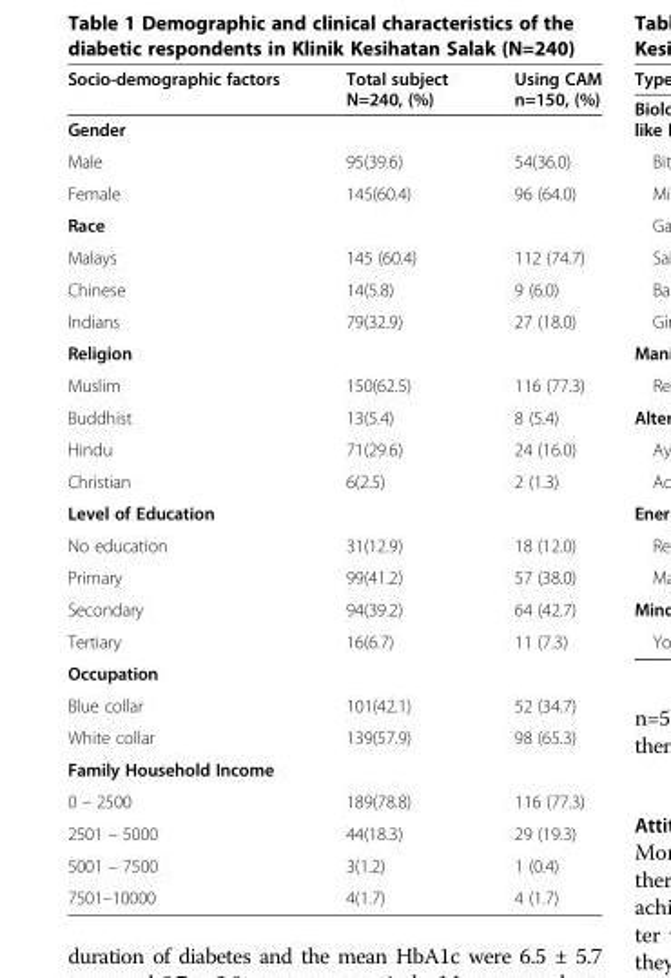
<table><thead><tr><td>Socio-demographic factors</td><td>Total subject N=240, (%)</td><td>Using CAM n=150, (%)</td></tr></thead><tbody><tr><td colspan="3">Gender</td></tr><tr><td>Male</td><td>95(39.6)</td><td>54(36.0)</td></tr><tr><td>Female</td><td>145(60.4)</td><td>96 (64.0)</td></tr><tr><td colspan="3">Race</td></tr><tr><td>Malays</td><td>145 (60.4)</td><td>112 (74.7)</td></tr><tr><td>Chinese</td><td>14(5.8)</td><td>9 (6.0)</td></tr><tr><td>Indians</td><td>79(32.9)</td><td>27 (18.0)</td></tr><tr><td colspan="3">Religion</td></tr><tr><td>Muslim</td><td>150(62.5)</td><td>116 (77.3)</td></tr><tr><td>Buddhist</td><td>13(5.4)</td><td>8 (5.4)</td></tr><tr><td>Hindu</td><td>71(29.6)</td><td>24 (16.0)</td></tr><tr><td>Christian</td><td>6(2.5)</td><td>2 (1.3)</td></tr><tr><td colspan="3">Level of Education</td></tr><tr><td>No education</td><td>31(12.9)</td><td>18 (12.0)</td></tr><tr><td>Primary</td><td>99(41.2)</td><td>57 (38.0)</td></tr><tr><td>Secondary</td><td>94(39.2)</td><td>64 (42.7)</td></tr><tr><td>Tertiary</td><td>16(6.7)</td><td>11 (7.3)</td></tr><tr><td colspan="3">Occupation</td></tr><tr><td>Blue collar</td><td>101(42.1)</td><td>52 (34.7)</td></tr><tr><td>White collar</td><td>139(57.9)</td><td>98 (65.3)</td></tr><tr><td colspan="3">Family Household Income</td></tr><tr><td>0 – 2500</td><td>189(78.8)</td><td>116 (77.3)</td></tr><tr><td>2501 – 5000</td><td>44(18.3)</td><td>29 (19.3)</td></tr><tr><td>5001 – 7500</td><td>3(1.2)</td><td>1 (0.4)</td></tr><tr><td>7501–10000</td><td>4(1.7)</td><td>4 (1.7)</td></tr></tbody></table>